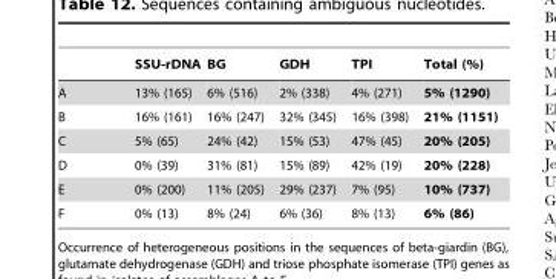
<table><thead><tr><td></td><td>SSU-rDNA</td><td>BG</td><td>GDH</td><td>TPI</td><td>Total (%)</td></tr></thead><tbody><tr><td>A</td><td>13% (165)</td><td>6% (516)</td><td>2% (338)</td><td>4% (271)</td><td>5% (1290)</td></tr><tr><td>B</td><td>16% (161)</td><td>16% (247)</td><td>32% (345)</td><td>16% (398)</td><td>21% (1151)</td></tr><tr><td>C</td><td>5% (65)</td><td>24% (42)</td><td>15% (53)</td><td>47% (45)</td><td>20% (205)</td></tr><tr><td>D</td><td>0% (39)</td><td>31% (81)</td><td>15% (89)</td><td>42% (19)</td><td>20% (228)</td></tr><tr><td>E</td><td>0% (200)</td><td>11% (205)</td><td>29% (237)</td><td>7% (95)</td><td>10% (737)</td></tr><tr><td>F</td><td>0% (13)</td><td>8% (24)</td><td>6% (36)</td><td>8% (13)</td><td>6% (86)</td></tr></tbody></table>